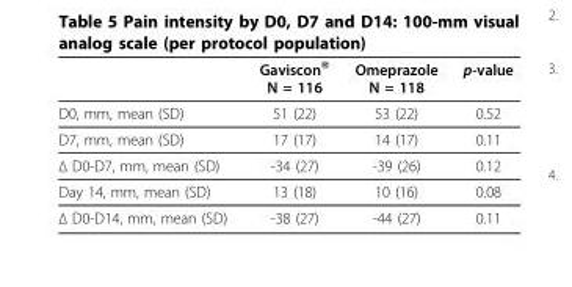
<table><thead><tr><td></td><td>Gaviscon<sup>®</sup> N = 116</td><td>Omeprazole N = 118</td><td>p-value</td></tr></thead><tbody><tr><td>D0, mm, mean (SD)</td><td>51 (22)</td><td>53 (22)</td><td>0.52</td></tr><tr><td>D7, mm, mean (SD)</td><td>17 (17)</td><td>14 (17)</td><td>0.11</td></tr><tr><td>Δ D0-D7, mm, mean (SD)</td><td>-34 (27)</td><td>-39 (26)</td><td>0.12</td></tr><tr><td>Day 14, mm, mean (SD)</td><td>13 (18)</td><td>10 (16)</td><td>0.08</td></tr><tr><td>Δ D0-D14, mm, mean (SD)</td><td>-38 (27)</td><td>-44 (27)</td><td>0.11</td></tr></tbody></table>